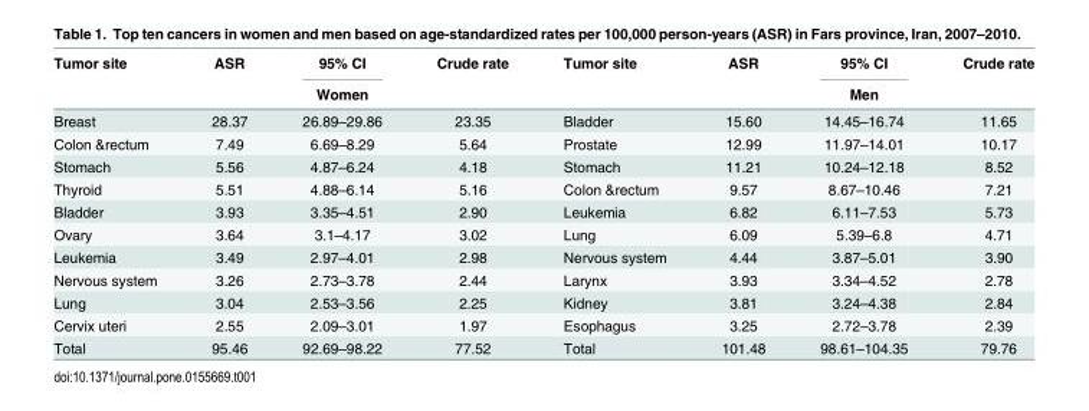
<table><thead><tr><td rowspan="2">Tumor site</td><td rowspan="2">ASR</td><td rowspan="2">95% CI Women</td><td rowspan="2">Crude rate</td><td rowspan="2">Tumor site</td><td rowspan="2">ASR</td><td rowspan="2">95% CI Men</td><td rowspan="2">Crude rate</td></tr><tr></tr></thead><tbody><tr><td>Breast</td><td>28.37</td><td>26.89–29.86</td><td>23.35</td><td>Bladder</td><td>15.60</td><td>14.45–16.74</td><td>11.65</td></tr><tr><td>Colon &amp;rectum</td><td>7.49</td><td>6.69–8.29</td><td>5.64</td><td>Prostate</td><td>12.99</td><td>11.97–14.01</td><td>10.17</td></tr><tr><td>Stomach</td><td>5.56</td><td>4.87–6.24</td><td>4.18</td><td>Stomach</td><td>11.21</td><td>10.24–12.18</td><td>8.52</td></tr><tr><td>Thyroid</td><td>5.51</td><td>4.88–6.14</td><td>5.16</td><td>Colon &amp;rectum</td><td>9.57</td><td>8.67–10.46</td><td>7.21</td></tr><tr><td>Bladder</td><td>3.93</td><td>3.35–4.51</td><td>2.90</td><td>Leukemia</td><td>6.82</td><td>6.11–7.53</td><td>5.73</td></tr><tr><td>Ovary</td><td>3.64</td><td>3.1–4.17</td><td>3.02</td><td>Lung</td><td>6.09</td><td>5.39–6.8</td><td>4.71</td></tr><tr><td>Leukemia</td><td>3.49</td><td>2.97–4.01</td><td>2.98</td><td>Nervous system</td><td>4.44</td><td>3.87–5.01</td><td>3.90</td></tr><tr><td>Nervous system</td><td>3.26</td><td>2.73–3.78</td><td>2.44</td><td>Larynx</td><td>3.93</td><td>3.34–4.52</td><td>2.78</td></tr><tr><td>Lung</td><td>3.04</td><td>2.53–3.56</td><td>2.25</td><td>Kidney</td><td>3.81</td><td>3.24–4.38</td><td>2.84</td></tr><tr><td>Cervix uteri</td><td>2.55</td><td>2.09–3.01</td><td>1.97</td><td>Esophagus</td><td>3.25</td><td>2.72–3.78</td><td>2.39</td></tr><tr><td>Total</td><td>95.46</td><td>92.69–98.22</td><td>77.52</td><td>Total</td><td>101.48</td><td>98.61–104.35</td><td>79.76</td></tr></tbody></table>